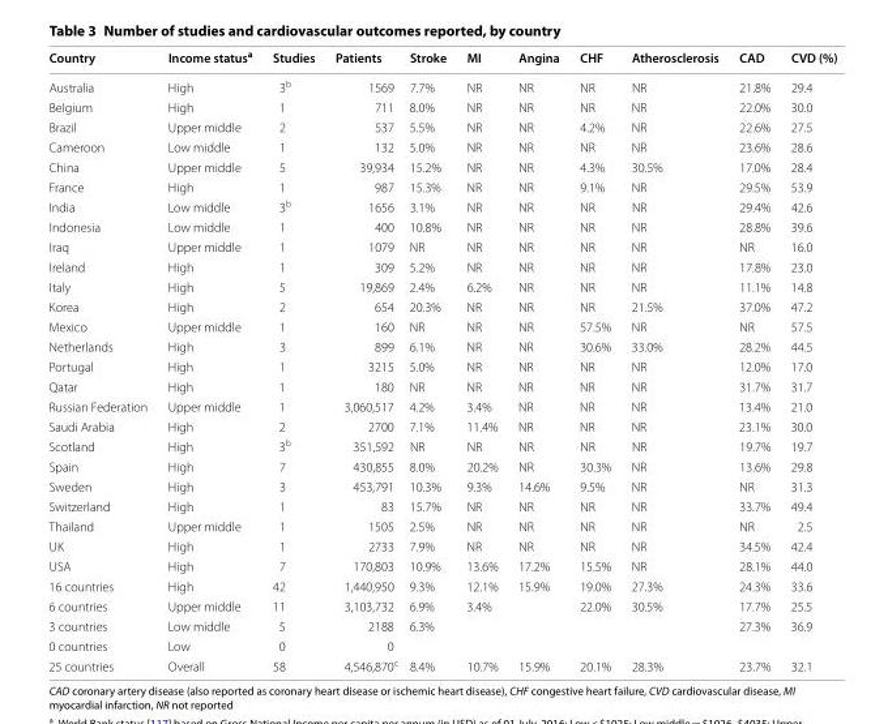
<table><thead><tr><td>Country</td><td>Income status<sup>a</sup></td><td>Studies</td><td>Patients</td><td>Stroke</td><td>MI</td><td>Angina</td><td>CHF</td><td>Atherosclerosis</td><td>CAD</td><td>CVD (%)</td></tr></thead><tbody><tr><td>Australia</td><td>High</td><td>3<sup>b</sup></td><td>1569</td><td>7.7%</td><td>NR</td><td>NR</td><td>NR</td><td>NR</td><td>21.8%</td><td>29.4</td></tr><tr><td>Belgium</td><td>High</td><td>1</td><td>711</td><td>8.0%</td><td>NR</td><td>NR</td><td>NR</td><td>NR</td><td>22.0%</td><td>30.0</td></tr><tr><td>Brazil</td><td>Upper middle</td><td>2</td><td>537</td><td>5.5%</td><td>NR</td><td>NR</td><td>4.2%</td><td>NR</td><td>22.6%</td><td>27.5</td></tr><tr><td>Cameroon</td><td>Low middle</td><td>1</td><td>132</td><td>5.0%</td><td>NR</td><td>NR</td><td>NR</td><td>NR</td><td>23.6%</td><td>28.6</td></tr><tr><td>China</td><td>Upper middle</td><td>5</td><td>39,934</td><td>15.2%</td><td>NR</td><td>NR</td><td>4.3%</td><td>30.5%</td><td>17.0%</td><td>28.4</td></tr><tr><td>France</td><td>High</td><td>1</td><td>987</td><td>15.3%</td><td>NR</td><td>NR</td><td>9.1%</td><td>NR</td><td>29.5%</td><td>53.9</td></tr><tr><td>India</td><td>Low middle</td><td>3<sup>b</sup></td><td>1656</td><td>3.1%</td><td>NR</td><td>NR</td><td>NR</td><td>NR</td><td>29.4%</td><td>42.6</td></tr><tr><td>Indonesia</td><td>Low middle</td><td>1</td><td>400</td><td>10.8%</td><td>NR</td><td>NR</td><td>NR</td><td>NR</td><td>28.8%</td><td>39.6</td></tr><tr><td>Iraq</td><td>Upper middle</td><td>1</td><td>1079</td><td>NR</td><td>NR</td><td>NR</td><td>NR</td><td>NR</td><td>NR</td><td>16.0</td></tr><tr><td>Ireland</td><td>High</td><td>1</td><td>309</td><td>5.2%</td><td>NR</td><td>NR</td><td>NR</td><td>NR</td><td>17.8%</td><td>23.0</td></tr><tr><td>Italy</td><td>High</td><td>5</td><td>19,869</td><td>2.4%</td><td>6.2%</td><td>NR</td><td>NR</td><td>NR</td><td>11.1%</td><td>14.8</td></tr><tr><td>Korea</td><td>High</td><td>2</td><td>654</td><td>20.3%</td><td>NR</td><td>NR</td><td>NR</td><td>21.5%</td><td>37.0%</td><td>47.2</td></tr><tr><td>Mexico</td><td>Upper middle</td><td>1</td><td>160</td><td>NR</td><td>NR</td><td>NR</td><td>57.5%</td><td>NR</td><td>NR</td><td>57.5</td></tr><tr><td>Netherlands</td><td>High</td><td>3</td><td>899</td><td>6.1%</td><td>NR</td><td>NR</td><td>30.6%</td><td>33.0%</td><td>28.2%</td><td>44.5</td></tr><tr><td>Portugal</td><td>High</td><td>1</td><td>3215</td><td>5.0%</td><td>NR</td><td>NR</td><td>NR</td><td>NR</td><td>12.0%</td><td>17.0</td></tr><tr><td>Qatar</td><td>High</td><td>1</td><td>180</td><td>NR</td><td>NR</td><td>NR</td><td>NR</td><td>NR</td><td>31.7%</td><td>31.7</td></tr><tr><td>Russian Federation</td><td>Upper middle</td><td>1</td><td>3,060,517</td><td>4.2%</td><td>3.4%</td><td>NR</td><td>NR</td><td>NR</td><td>13.4%</td><td>21.0</td></tr><tr><td>Saudi Arabia</td><td>High</td><td>2</td><td>2700</td><td>7.1%</td><td>11.4%</td><td>NR</td><td>NR</td><td>NR</td><td>23.1%</td><td>30.0</td></tr><tr><td>Scotland</td><td>High</td><td>3<sup>b</sup></td><td>351,592</td><td>NR</td><td>NR</td><td>NR</td><td>NR</td><td>NR</td><td>19.7%</td><td>19.7</td></tr><tr><td>Spain</td><td>High</td><td>7</td><td>430,855</td><td>8.0%</td><td>20.2%</td><td>NR</td><td>30.3%</td><td>NR</td><td>13.6%</td><td>29.8</td></tr><tr><td>Sweden</td><td>High</td><td>3</td><td>453,791</td><td>10.3%</td><td>9.3%</td><td>14.6%</td><td>9.5%</td><td>NR</td><td>NR</td><td>31.3</td></tr><tr><td>Switzerland</td><td>High</td><td>1</td><td>83</td><td>15.7%</td><td>NR</td><td>NR</td><td>NR</td><td>NR</td><td>33.7%</td><td>49.4</td></tr><tr><td>Thailand</td><td>Upper middle</td><td>1</td><td>1505</td><td>2.5%</td><td>NR</td><td>NR</td><td>NR</td><td>NR</td><td>NR</td><td>2.5</td></tr><tr><td>UK</td><td>High</td><td>1</td><td>2733</td><td>7.9%</td><td>NR</td><td>NR</td><td>NR</td><td>NR</td><td>34.5%</td><td>42.4</td></tr><tr><td>USA</td><td>High</td><td>7</td><td>170,803</td><td>10.9%</td><td>13.6%</td><td>17.2%</td><td>15.5%</td><td>NR</td><td>28.1%</td><td>44.0</td></tr><tr><td>16 countries</td><td>High</td><td>42</td><td>1,440,950</td><td>9.3%</td><td>12.1%</td><td>15.9%</td><td>19.0%</td><td>27.3%</td><td>24.3%</td><td>33.6</td></tr><tr><td>6 countries</td><td>Upper middle</td><td>11</td><td>3,103,732</td><td>6.9%</td><td>3.4%</td><td></td><td>22.0%</td><td>30.5%</td><td>17.7%</td><td>25.5</td></tr><tr><td>3 countries</td><td>Low middle</td><td>5</td><td>2188</td><td>6.3%</td><td></td><td></td><td></td><td></td><td>27.3%</td><td>36.9</td></tr><tr><td>0 countries</td><td>Low</td><td>0</td><td>0</td><td></td><td></td><td></td><td></td><td></td><td></td><td></td></tr><tr><td>25 countries</td><td>Overall</td><td>58</td><td>4,546,870<sup>c</sup></td><td>8.4%</td><td>10.7%</td><td>15.9%</td><td>20.1%</td><td>28.3%</td><td>23.7%</td><td>32.1</td></tr></tbody></table>